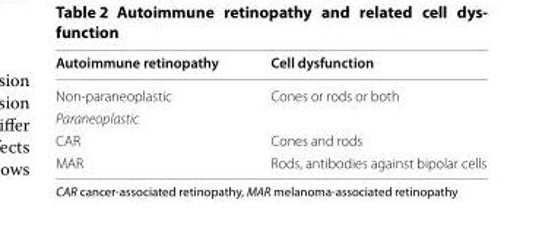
<table><thead><tr><td>Autoimmune retinopathy</td><td>Cell dysfunction</td></tr></thead><tbody><tr><td>Non-paraneoplastic</td><td>Cones or rods or both</td></tr><tr><td colspan="2">Paraneoplastic</td></tr><tr><td>CAR</td><td>Cones and rods</td></tr><tr><td>MAR</td><td>Rods, antibodies against bipolar cells</td></tr></tbody></table>